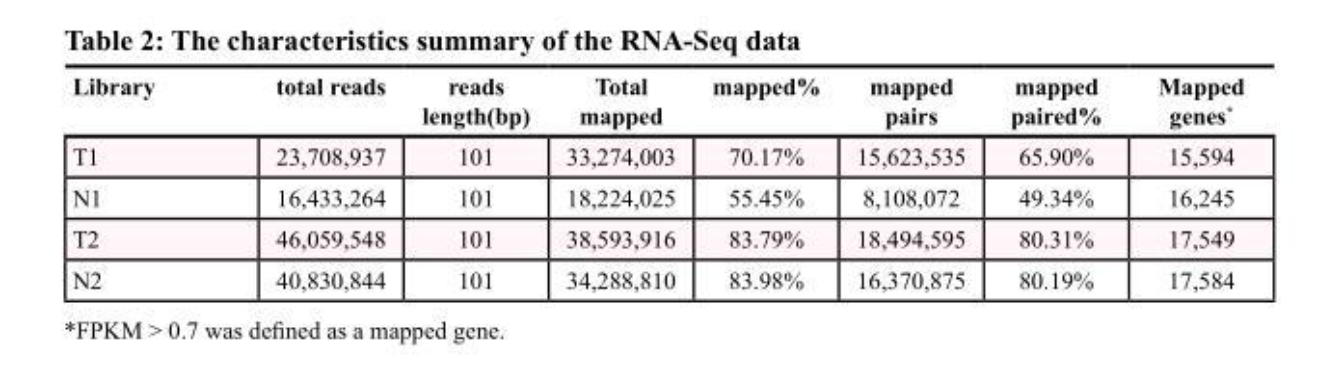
<table><thead><tr><td>Library</td><td>total reads</td><td>reads length(bp)</td><td>Total mapped</td><td>mapped%</td><td>mapped pairs</td><td>mapped paired%</td><td>Mapped genes*</td></tr></thead><tbody><tr><td>T1</td><td>23,708,937</td><td>101</td><td>33,274,003</td><td>70.17%</td><td>15,623,535</td><td>65.90%</td><td>15,594</td></tr><tr><td>N1</td><td>16,433,264</td><td>101</td><td>18,224,025</td><td>55.45%</td><td>8,108,072</td><td>49.34%</td><td>16,245</td></tr><tr><td>T2</td><td>46,059,548</td><td>101</td><td>38,593,916</td><td>83.79%</td><td>18,494,595</td><td>80.31%</td><td>17,549</td></tr><tr><td>N2</td><td>40,830,844</td><td>101</td><td>34,288,810</td><td>83.98%</td><td>16,370,875</td><td>80.19%</td><td>17,584</td></tr></tbody></table>